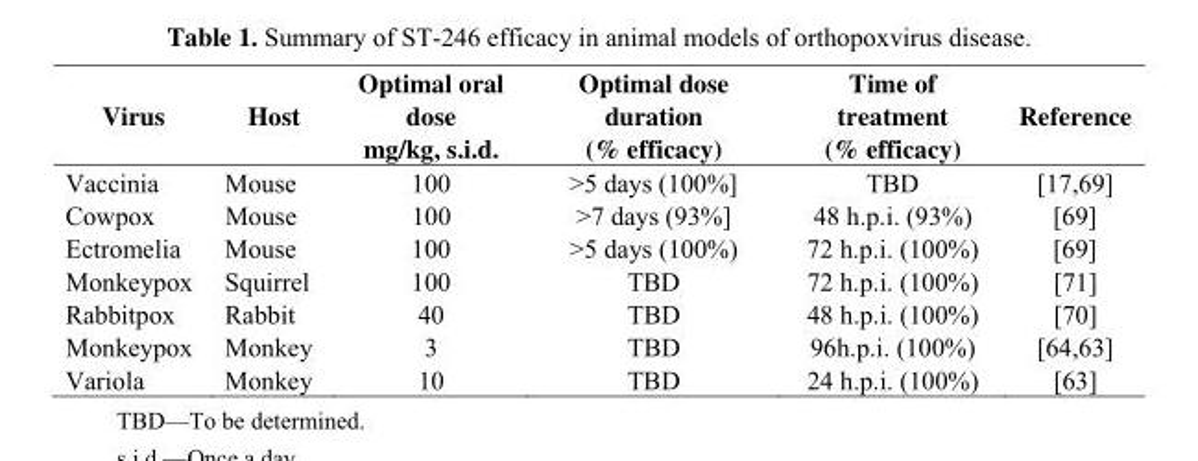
<table><thead><tr><td>Virus</td><td>Host</td><td>Optimal oral dose mg/kg, s.i.d.</td><td>Optimal dose duration (% efficacy)</td><td>Time of treatment (% efficacy)</td><td>Reference</td></tr></thead><tbody><tr><td>Vaccinia</td><td>Mouse</td><td>100</td><td>&gt;5 days (100%]</td><td>TBD</td><td>[17,69]</td></tr><tr><td>Cowpox</td><td>Mouse</td><td>100</td><td>&gt;7 days (93%]</td><td>48 h.p.i. (93%)</td><td>[69]</td></tr><tr><td>Ectromelia</td><td>Mouse</td><td>100</td><td>&gt;5 days (100%)</td><td>72 h.p.i. (100%)</td><td>[69]</td></tr><tr><td>Monkeypox</td><td>Squirrel</td><td>100</td><td>TBD</td><td>72 h.p.i. (100%)</td><td>[71]</td></tr><tr><td>Rabbitpox</td><td>Rabbit</td><td>40</td><td>TBD</td><td>48 h.p.i. (100%)</td><td>[70]</td></tr><tr><td>Monkeypox</td><td>Monkey</td><td>3</td><td>TBD</td><td>96h.p.i. (100%)</td><td>[64,63]</td></tr><tr><td>Variola</td><td>Monkey</td><td>10</td><td>TBD</td><td>24 h.p.i. (100%)</td><td>[63]</td></tr></tbody></table>